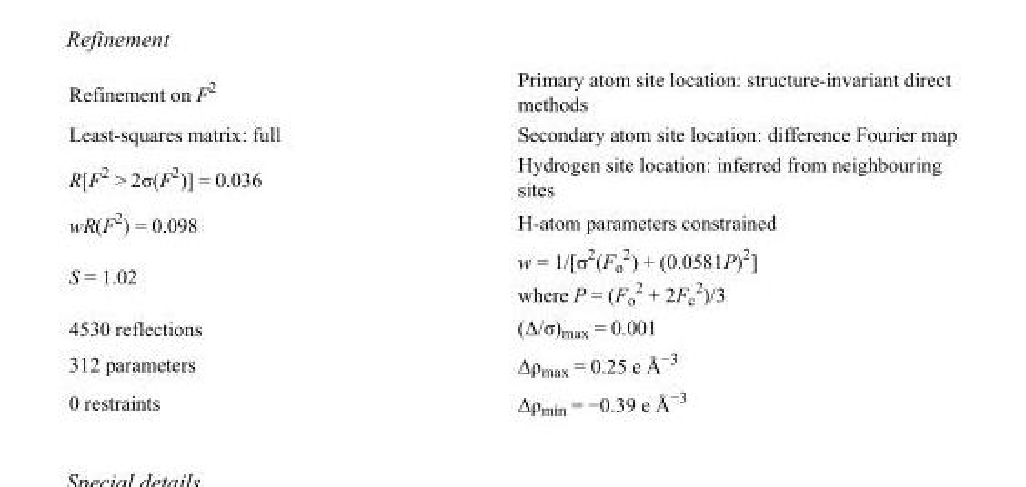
<table><tbody><tr><td>Refinement on F<sup>2</sup></td><td>Primary atom site location: structure-invariant direct methods</td></tr><tr><td>Least-squares matrix: full</td><td>Secondary atom site location: difference Fourier map</td></tr><tr><td>R[F<sup>2</sup> &gt; 2σ(F<sup>2</sup>)] = 0.036</td><td>Hydrogen site location: inferred from neighbouring sites</td></tr><tr><td>wR(F<sup>2</sup>) = 0.098</td><td>H-atom parameters constrained</td></tr><tr><td>S = 1.02</td><td>w = 1/[σ<sup>2</sup>(F<sub>o</sub> <sup>2</sup>) + (0.0581P)<sup>2</sup>] where P = (F<sub>o</sub> <sup>2</sup> + 2F<sub>c</sub> <sup>2</sup>)/3</td></tr><tr><td>4530 reflections</td><td>(Δ/σ)<sub>max</sub> = 0.001</td></tr><tr><td>312 parameters</td><td>Δρ<sub>max</sub> = 0.25 e Å<sup>−3</sup></td></tr><tr><td>0 restraints</td><td>Δρ<sub>min</sub> = −0.39 e Å<sup>−3</sup></td></tr></tbody></table>